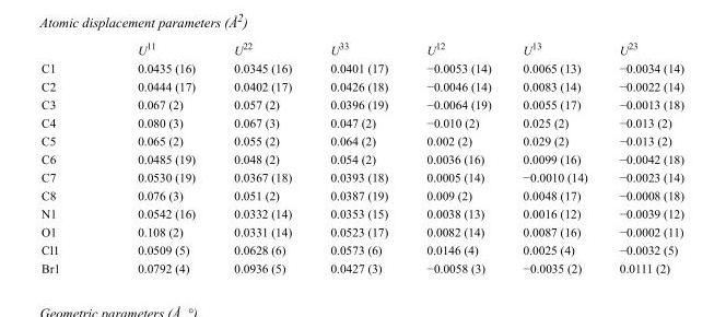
<table><thead><tr><td></td><td>U<sup>11</sup></td><td>U<sup>22</sup></td><td>U<sup>33</sup></td><td>U<sup>12</sup></td><td>U<sup>13</sup></td><td>U<sup>23</sup></td></tr></thead><tbody><tr><td>C1</td><td>0.0435 (16)</td><td>0.0345 (16)</td><td>0.0401 (17)</td><td>−0.0053 (14)</td><td>0.0065 (13)</td><td>−0.0034 (14)</td></tr><tr><td>C2</td><td>0.0444 (17)</td><td>0.0402 (17)</td><td>0.0426 (18)</td><td>−0.0046 (14)</td><td>0.0083 (14)</td><td>−0.0022 (14)</td></tr><tr><td>C3</td><td>0.067 (2)</td><td>0.057 (2)</td><td>0.0396 (19)</td><td>−0.0064 (19)</td><td>0.0055 (17)</td><td>−0.0013 (18)</td></tr><tr><td>C4</td><td>0.080 (3)</td><td>0.067 (3)</td><td>0.047 (2)</td><td>−0.010 (2)</td><td>0.025 (2)</td><td>−0.013 (2)</td></tr><tr><td>C5</td><td>0.065 (2)</td><td>0.055 (2)</td><td>0.064 (2)</td><td>0.002 (2)</td><td>0.029 (2)</td><td>−0.013 (2)</td></tr><tr><td>C6</td><td>0.0485 (19)</td><td>0.048 (2)</td><td>0.054 (2)</td><td>0.0036 (16)</td><td>0.0099 (16)</td><td>−0.0042 (18)</td></tr><tr><td>C7</td><td>0.0530 (19)</td><td>0.0367 (18)</td><td>0.0393 (18)</td><td>0.0005 (14)</td><td>−0.0010 (14)</td><td>−0.0023 (14)</td></tr><tr><td>C8</td><td>0.076 (3)</td><td>0.051 (2)</td><td>0.0387 (19)</td><td>0.009 (2)</td><td>0.0048 (17)</td><td>−0.0008 (18)</td></tr><tr><td>N1</td><td>0.0542 (16)</td><td>0.0332 (14)</td><td>0.0353 (15)</td><td>0.0038 (13)</td><td>0.0016 (12)</td><td>−0.0039 (12)</td></tr><tr><td>O1</td><td>0.108 (2)</td><td>0.0331 (14)</td><td>0.0523 (17)</td><td>0.0082 (14)</td><td>0.0087 (16)</td><td>−0.0002 (11)</td></tr><tr><td>Cl1</td><td>0.0509 (5)</td><td>0.0628 (6)</td><td>0.0573 (6)</td><td>0.0146 (4)</td><td>0.0025 (4)</td><td>−0.0032 (5)</td></tr><tr><td>Br1</td><td>0.0792 (4)</td><td>0.0936 (5)</td><td>0.0427 (3)</td><td>−0.0058 (3)</td><td>−0.0035 (2)</td><td>0.0111 (2)</td></tr></tbody></table>